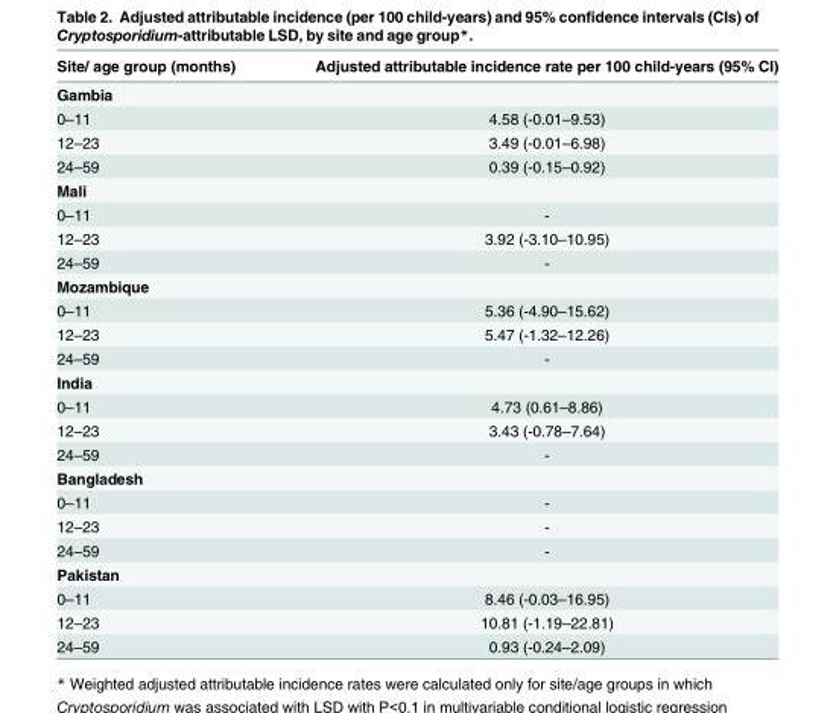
<table><thead><tr><td>Site/ age group (months)</td><td>Adjusted attributable incidence rate per 100 child-years (95% CI)</td></tr></thead><tbody><tr><td colspan="2">Gambia</td></tr><tr><td>0–11</td><td>4.58 (-0.01–9.53)</td></tr><tr><td>12–23</td><td>3.49 (-0.01–6.98)</td></tr><tr><td>24–59</td><td>0.39 (-0.15–0.92)</td></tr><tr><td colspan="2">Mali</td></tr><tr><td>0–11</td><td>-</td></tr><tr><td>12–23</td><td>3.92 (-3.10–10.95)</td></tr><tr><td>24–59</td><td>-</td></tr><tr><td colspan="2">Mozambique</td></tr><tr><td>0–11</td><td>5.36 (-4.90–15.62)</td></tr><tr><td>12–23</td><td>5.47 (-1.32–12.26)</td></tr><tr><td>24–59</td><td>-</td></tr><tr><td colspan="2">India</td></tr><tr><td>0–11</td><td>4.73 (0.61–8.86)</td></tr><tr><td>12–23</td><td>3.43 (-0.78–7.64)</td></tr><tr><td>24–59</td><td>-</td></tr><tr><td colspan="2">Bangladesh</td></tr><tr><td>0–11</td><td>-</td></tr><tr><td>12–23</td><td>-</td></tr><tr><td>24–59</td><td>-</td></tr><tr><td colspan="2">Pakistan</td></tr><tr><td>0–11</td><td>8.46 (-0.03–16.95)</td></tr><tr><td>12–23</td><td>10.81 (-1.19–22.81)</td></tr><tr><td>24–59</td><td>0.93 (-0.24–2.09)</td></tr></tbody></table>